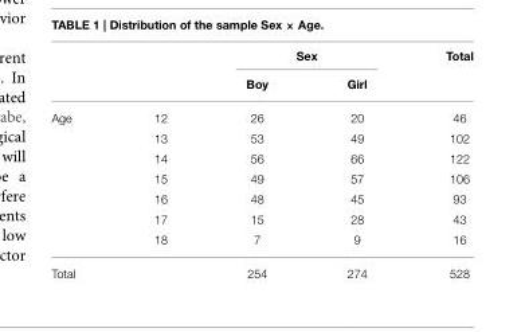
<table><thead><tr><td rowspan="2"></td><td rowspan="2"></td><td colspan="2">Sex</td><td rowspan="2">Total</td></tr><tr><td>Boy</td><td>Girl</td></tr></thead><tbody><tr><td rowspan="7">Age</td><td>12</td><td>26</td><td>20</td><td>46</td></tr><tr><td>13</td><td>53</td><td>49</td><td>102</td></tr><tr><td>14</td><td>56</td><td>66</td><td>122</td></tr><tr><td>15</td><td>49</td><td>57</td><td>106</td></tr><tr><td>16</td><td>48</td><td>45</td><td>93</td></tr><tr><td>17</td><td>15</td><td>28</td><td>43</td></tr><tr><td>18</td><td>7</td><td>9</td><td>16</td></tr><tr><td>Total</td><td></td><td>254</td><td>274</td><td>528</td></tr></tbody></table>